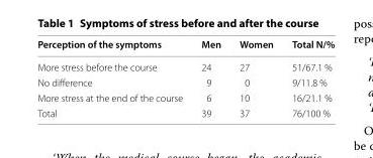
<table><thead><tr><td>Perception of the symptoms</td><td>Men</td><td>Women</td><td>Total N/%</td></tr></thead><tbody><tr><td>More stress before the course</td><td>24</td><td>27</td><td>51/67.1 %</td></tr><tr><td>No difference</td><td>9</td><td>0</td><td>9/11.8 %</td></tr><tr><td>More stress at the end of the course</td><td>6</td><td>10</td><td>16/21.1 %</td></tr><tr><td>Total</td><td>39</td><td>37</td><td>76/100 %</td></tr></tbody></table>